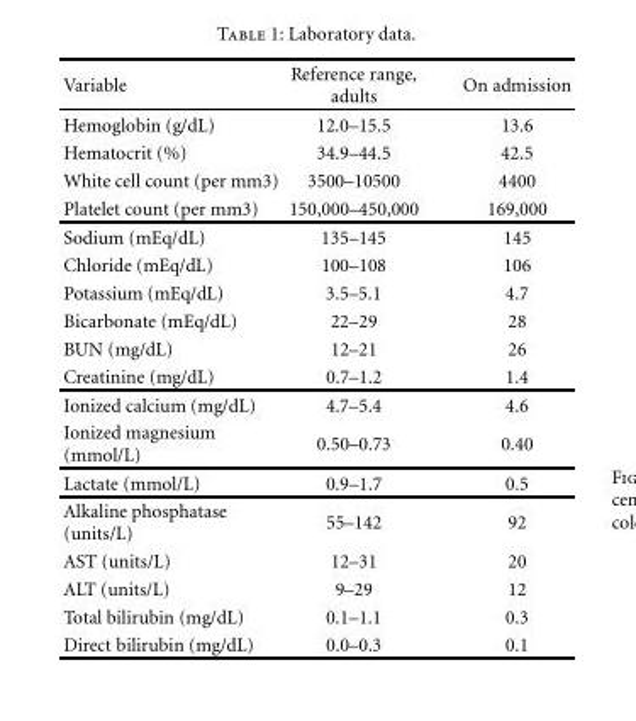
<table><thead><tr><td>Variable</td><td>Reference range, adults</td><td>On admission</td></tr></thead><tbody><tr><td>Hemoglobin (g/dL)</td><td>12.0–15.5</td><td>13.6</td></tr><tr><td>Hematocrit (%)</td><td>34.9–44.5</td><td>42.5</td></tr><tr><td>White cell count (per mm3)</td><td>3500–10500</td><td>4400</td></tr><tr><td>Platelet count (per mm3)</td><td>150,000–450,000</td><td>169,000</td></tr><tr><td>Sodium (mEq/dL)</td><td>135–145</td><td>145</td></tr><tr><td>Chloride (mEq/dL)</td><td>100–108</td><td>106</td></tr><tr><td>Potassium (mEq/dL)</td><td>3.5–5.1</td><td>4.7</td></tr><tr><td>Bicarbonate (mEq/dL)</td><td>22–29</td><td>28</td></tr><tr><td>BUN (mg/dL)</td><td>12–21</td><td>26</td></tr><tr><td>Creatinine (mg/dL)</td><td>0.7–1.2</td><td>1.4</td></tr><tr><td>Ionized calcium (mg/dL)</td><td>4.7–5.4</td><td>4.6</td></tr><tr><td>Ionized magnesium (mmol/L)</td><td>0.50–0.73</td><td>0.40</td></tr><tr><td>Lactate (mmol/L)</td><td>0.9–1.7</td><td>0.5</td></tr><tr><td>Alkaline phosphatase (units/L)</td><td>55–142</td><td>92</td></tr><tr><td>AST (units/L)</td><td>12–31</td><td>20</td></tr><tr><td>ALT (units/L)</td><td>9–29</td><td>12</td></tr><tr><td>Total bilirubin (mg/dL)</td><td>0.1–1.1</td><td>0.3</td></tr><tr><td>Direct bilirubin (mg/dL)</td><td>0.0–0.3</td><td>0.1</td></tr></tbody></table>